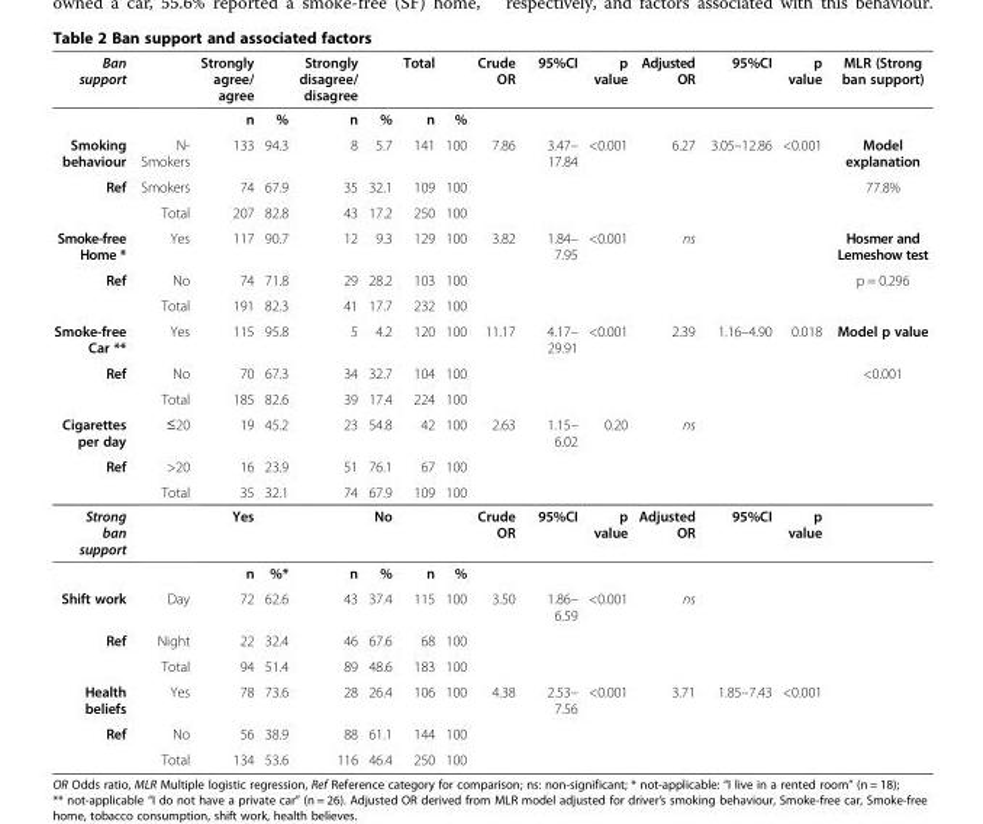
<table><thead><tr><td>Ban support</td><td></td><td>Strongly agree/ agree</td><td></td><td>Strongly disagree/ disagree</td><td></td><td>Total</td><td></td><td>Crude OR</td><td>95%CI</td><td>p value</td><td>Adjusted OR</td><td>95%CI</td><td>p value</td><td>MLR (Strong ban support)</td></tr></thead><tbody><tr><td></td><td></td><td>n</td><td>%</td><td>n</td><td>%</td><td>n</td><td>%</td><td></td><td></td><td></td><td></td><td></td><td></td><td></td></tr><tr><td>Smoking behaviour</td><td>N- Smokers</td><td>133</td><td>94.3</td><td>8</td><td>5.7</td><td>141</td><td>100</td><td>7.86</td><td>3.47– 17.84</td><td>&lt;0.001</td><td>6.27</td><td>3.05–12.86</td><td>&lt;0.001</td><td>Model explanation</td></tr><tr><td rowspan="2">Ref</td><td>Smokers</td><td>74</td><td>67.9</td><td>35</td><td>32.1</td><td>109</td><td>100</td><td></td><td></td><td></td><td></td><td></td><td></td><td>77.8%</td></tr><tr><td>Total</td><td>207</td><td>82.8</td><td>43</td><td>17.2</td><td>250</td><td>100</td><td></td><td></td><td></td><td></td><td></td><td></td><td></td></tr><tr><td>Smoke-free Home *</td><td>Yes</td><td>117</td><td>90.7</td><td>12</td><td>9.3</td><td>129</td><td>100</td><td>3.82</td><td>1.84– 7.95</td><td>&lt;0.001</td><td>ns</td><td></td><td></td><td>Hosmer and Lemeshow test</td></tr><tr><td rowspan="2">Ref</td><td>No</td><td>74</td><td>71.8</td><td>29</td><td>28.2</td><td>103</td><td>100</td><td></td><td></td><td></td><td></td><td></td><td></td><td>p = 0.296</td></tr><tr><td>Total</td><td>191</td><td>82.3</td><td>41</td><td>17.7</td><td>232</td><td>100</td><td></td><td></td><td></td><td></td><td></td><td></td><td></td></tr><tr><td>Smoke-free Car **</td><td>Yes</td><td>115</td><td>95.8</td><td>5</td><td>4.2</td><td>120</td><td>100</td><td>11.17</td><td>4.17– 29.91</td><td>&lt;0.001</td><td>2.39</td><td>1.16–4.90</td><td>0.018</td><td>Model p value</td></tr><tr><td rowspan="2">Ref</td><td>No</td><td>70</td><td>67.3</td><td>34</td><td>32.7</td><td>104</td><td>100</td><td></td><td></td><td></td><td></td><td></td><td></td><td>&lt;0.001</td></tr><tr><td>Total</td><td>185</td><td>82.6</td><td>39</td><td>17.4</td><td>224</td><td>100</td><td></td><td></td><td></td><td></td><td></td><td></td><td></td></tr><tr><td>Cigarettes per day</td><td>≤20</td><td>19</td><td>45.2</td><td>23</td><td>54.8</td><td>42</td><td>100</td><td>2.63</td><td>1.15– 6.02</td><td>0.20</td><td>ns</td><td></td><td></td><td></td></tr><tr><td rowspan="2">Ref</td><td>&gt;20</td><td>16</td><td>23.9</td><td>51</td><td>76.1</td><td>67</td><td>100</td><td></td><td></td><td></td><td></td><td></td><td></td><td></td></tr><tr><td>Total</td><td>35</td><td>32.1</td><td>74</td><td>67.9</td><td>109</td><td>100</td><td></td><td></td><td></td><td></td><td></td><td></td><td></td></tr><tr><td rowspan="2">Strong ban support</td><td></td><td>Yes</td><td></td><td></td><td>No</td><td></td><td></td><td>Crude OR</td><td>95%CI</td><td>p value</td><td>Adjusted OR</td><td>95%CI</td><td>p value</td><td></td></tr><tr><td></td><td>n</td><td>%*</td><td>n</td><td>%</td><td>n</td><td>%</td><td></td><td></td><td></td><td></td><td></td><td></td><td></td></tr><tr><td>Shift work</td><td>Day</td><td>72</td><td>62.6</td><td>43</td><td>37.4</td><td>115</td><td>100</td><td>3.50</td><td>1.86– 6.59</td><td>&lt;0.001</td><td>ns</td><td></td><td></td><td></td></tr><tr><td rowspan="2">Ref</td><td>Night</td><td>22</td><td>32.4</td><td>46</td><td>67.6</td><td>68</td><td>100</td><td></td><td></td><td></td><td></td><td></td><td></td><td></td></tr><tr><td>Total</td><td>94</td><td>51.4</td><td>89</td><td>48.6</td><td>183</td><td>100</td><td></td><td></td><td></td><td></td><td></td><td></td><td></td></tr><tr><td>Health beliefs</td><td>Yes</td><td>78</td><td>73.6</td><td>28</td><td>26.4</td><td>106</td><td>100</td><td>4.38</td><td>2.53– 7.56</td><td>&lt;0.001</td><td>3.71</td><td>1.85–7.43</td><td>&lt;0.001</td><td></td></tr><tr><td rowspan="2">Ref</td><td>No</td><td>56</td><td>38.9</td><td>88</td><td>61.1</td><td>144</td><td>100</td><td></td><td></td><td></td><td></td><td></td><td></td><td></td></tr><tr><td>Total</td><td>134</td><td>53.6</td><td>116</td><td>46.4</td><td>250</td><td>100</td><td></td><td></td><td></td><td></td><td></td><td></td><td></td></tr></tbody></table>